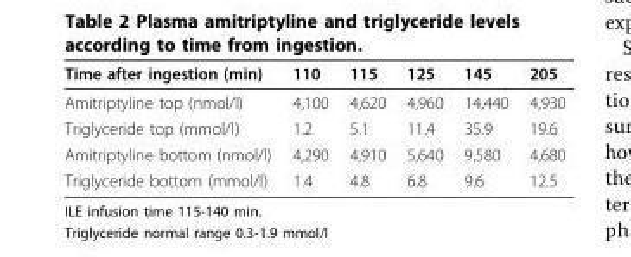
<table><thead><tr><td>Time after ingestion (min)</td><td>110</td><td>115</td><td>125</td><td>145</td><td>205</td></tr></thead><tbody><tr><td>Amitriptyline top (nmol/l)</td><td>4,100</td><td>4,620</td><td>4,960</td><td>14,440</td><td>4,930</td></tr><tr><td>Triglyceride top (mmol/l)</td><td>1.2</td><td>5.1</td><td>11.4</td><td>35.9</td><td>19.6</td></tr><tr><td>Amitriptyline bottom (nmol/l)</td><td>4,290</td><td>4,910</td><td>5,640</td><td>9,580</td><td>4,680</td></tr><tr><td>Triglyceride bottom (mmol/l)</td><td>1.4</td><td>4.8</td><td>6.8</td><td>9.6</td><td>12.5</td></tr></tbody></table>